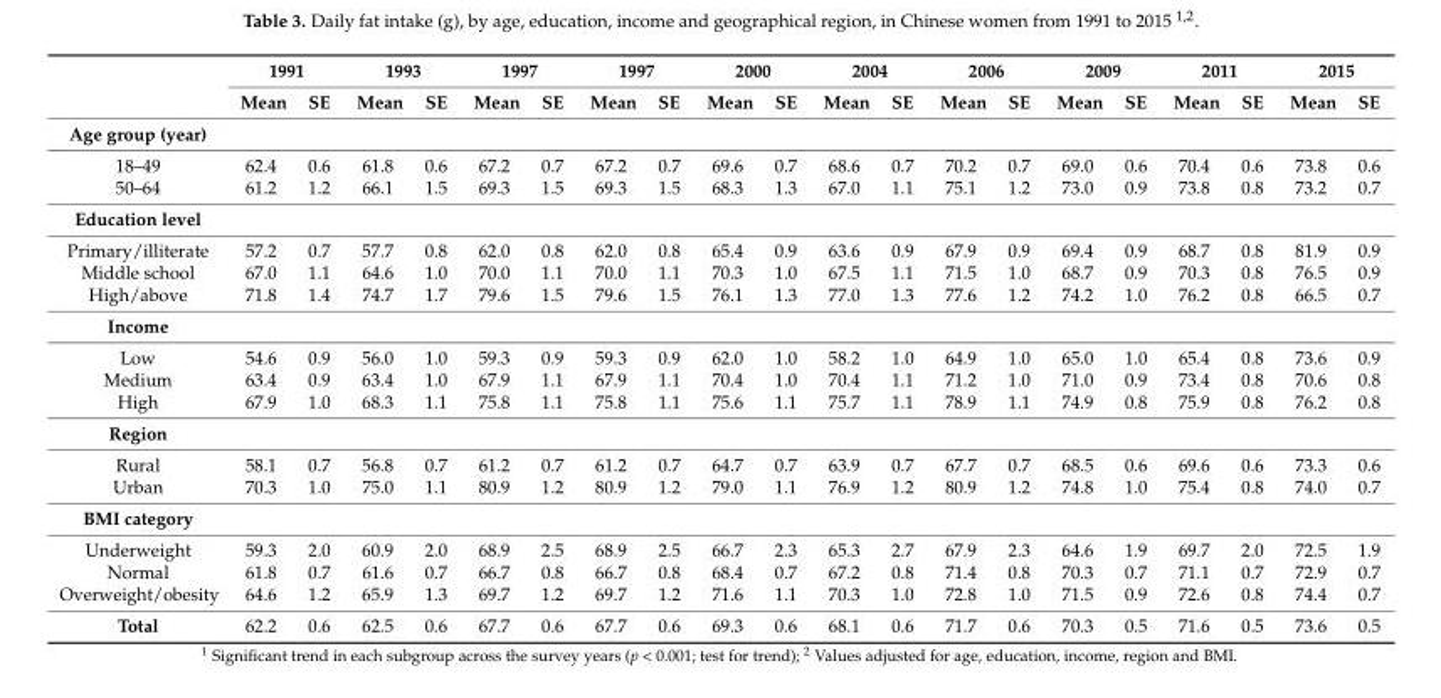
<table><thead><tr><td rowspan="2"></td><td colspan="2">1991</td><td colspan="2">1993</td><td colspan="2">1997</td><td colspan="2">1997</td><td colspan="2">2000</td><td colspan="2">2004</td><td colspan="2">2006</td><td colspan="2">2009</td><td colspan="2">2011</td><td colspan="2">2015</td></tr><tr><td>Mean</td><td>SE</td><td>Mean</td><td>SE</td><td>Mean</td><td>SE</td><td>Mean</td><td>SE</td><td>Mean</td><td>SE</td><td>Mean</td><td>SE</td><td>Mean</td><td>SE</td><td>Mean</td><td>SE</td><td>Mean</td><td>SE</td><td>Mean</td><td>SE</td></tr></thead><tbody><tr><td colspan="21">Age group (year)</td></tr><tr><td>18–49</td><td>62.4</td><td>0.6</td><td>61.8</td><td>0.6</td><td>67.2</td><td>0.7</td><td>67.2</td><td>0.7</td><td>69.6</td><td>0.7</td><td>68.6</td><td>0.7</td><td>70.2</td><td>0.7</td><td>69.0</td><td>0.6</td><td>70.4</td><td>0.6</td><td>73.8</td><td>0.6</td></tr><tr><td>50–64</td><td>61.2</td><td>1.2</td><td>66.1</td><td>1.5</td><td>69.3</td><td>1.5</td><td>69.3</td><td>1.5</td><td>68.3</td><td>1.3</td><td>67.0</td><td>1.1</td><td>75.1</td><td>1.2</td><td>73.0</td><td>0.9</td><td>73.8</td><td>0.8</td><td>73.2</td><td>0.7</td></tr><tr><td colspan="21">Education level</td></tr><tr><td>Primary/illiterate</td><td>57.2</td><td>0.7</td><td>57.7</td><td>0.8</td><td>62.0</td><td>0.8</td><td>62.0</td><td>0.8</td><td>65.4</td><td>0.9</td><td>63.6</td><td>0.9</td><td>67.9</td><td>0.9</td><td>69.4</td><td>0.9</td><td>68.7</td><td>0.8</td><td>81.9</td><td>0.9</td></tr><tr><td>Middle school</td><td>67.0</td><td>1.1</td><td>64.6</td><td>1.0</td><td>70.0</td><td>1.1</td><td>70.0</td><td>1.1</td><td>70.3</td><td>1.0</td><td>67.5</td><td>1.1</td><td>71.5</td><td>1.0</td><td>68.7</td><td>0.9</td><td>70.3</td><td>0.8</td><td>76.5</td><td>0.9</td></tr><tr><td>High/above</td><td>71.8</td><td>1.4</td><td>74.7</td><td>1.7</td><td>79.6</td><td>1.5</td><td>79.6</td><td>1.5</td><td>76.1</td><td>1.3</td><td>77.0</td><td>1.3</td><td>77.6</td><td>1.2</td><td>74.2</td><td>1.0</td><td>76.2</td><td>0.8</td><td>66.5</td><td>0.7</td></tr><tr><td colspan="21">Income</td></tr><tr><td>Low</td><td>54.6</td><td>0.9</td><td>56.0</td><td>1.0</td><td>59.3</td><td>0.9</td><td>59.3</td><td>0.9</td><td>62.0</td><td>1.0</td><td>58.2</td><td>1.0</td><td>64.9</td><td>1.0</td><td>65.0</td><td>1.0</td><td>65.4</td><td>0.8</td><td>73.6</td><td>0.9</td></tr><tr><td>Medium</td><td>63.4</td><td>0.9</td><td>63.4</td><td>1.0</td><td>67.9</td><td>1.1</td><td>67.9</td><td>1.1</td><td>70.4</td><td>1.0</td><td>70.4</td><td>1.1</td><td>71.2</td><td>1.0</td><td>71.0</td><td>0.9</td><td>73.4</td><td>0.8</td><td>70.6</td><td>0.8</td></tr><tr><td>High</td><td>67.9</td><td>1.0</td><td>68.3</td><td>1.1</td><td>75.8</td><td>1.1</td><td>75.8</td><td>1.1</td><td>75.6</td><td>1.1</td><td>75.7</td><td>1.1</td><td>78.9</td><td>1.1</td><td>74.9</td><td>0.8</td><td>75.9</td><td>0.8</td><td>76.2</td><td>0.8</td></tr><tr><td colspan="21">Region</td></tr><tr><td>Rural</td><td>58.1</td><td>0.7</td><td>56.8</td><td>0.7</td><td>61.2</td><td>0.7</td><td>61.2</td><td>0.7</td><td>64.7</td><td>0.7</td><td>63.9</td><td>0.7</td><td>67.7</td><td>0.7</td><td>68.5</td><td>0.6</td><td>69.6</td><td>0.6</td><td>73.3</td><td>0.6</td></tr><tr><td>Urban</td><td>70.3</td><td>1.0</td><td>75.0</td><td>1.1</td><td>80.9</td><td>1.2</td><td>80.9</td><td>1.2</td><td>79.0</td><td>1.1</td><td>76.9</td><td>1.2</td><td>80.9</td><td>1.2</td><td>74.8</td><td>1.0</td><td>75.4</td><td>0.8</td><td>74.0</td><td>0.7</td></tr><tr><td colspan="21">BMI category</td></tr><tr><td>Underweight</td><td>59.3</td><td>2.0</td><td>60.9</td><td>2.0</td><td>68.9</td><td>2.5</td><td>68.9</td><td>2.5</td><td>66.7</td><td>2.3</td><td>65.3</td><td>2.7</td><td>67.9</td><td>2.3</td><td>64.6</td><td>1.9</td><td>69.7</td><td>2.0</td><td>72.5</td><td>1.9</td></tr><tr><td>Normal</td><td>61.8</td><td>0.7</td><td>61.6</td><td>0.7</td><td>66.7</td><td>0.8</td><td>66.7</td><td>0.8</td><td>68.4</td><td>0.7</td><td>67.2</td><td>0.8</td><td>71.4</td><td>0.8</td><td>70.3</td><td>0.7</td><td>71.1</td><td>0.7</td><td>72.9</td><td>0.7</td></tr><tr><td>Overweight/obesity</td><td>64.6</td><td>1.2</td><td>65.9</td><td>1.3</td><td>69.7</td><td>1.2</td><td>69.7</td><td>1.2</td><td>71.6</td><td>1.1</td><td>70.3</td><td>1.0</td><td>72.8</td><td>1.0</td><td>71.5</td><td>0.9</td><td>72.6</td><td>0.8</td><td>74.4</td><td>0.7</td></tr><tr><td>Total</td><td>62.2</td><td>0.6</td><td>62.5</td><td>0.6</td><td>67.7</td><td>0.6</td><td>67.7</td><td>0.6</td><td>69.3</td><td>0.6</td><td>68.1</td><td>0.6</td><td>71.7</td><td>0.6</td><td>70.3</td><td>0.5</td><td>71.6</td><td>0.5</td><td>73.6</td><td>0.5</td></tr></tbody></table>